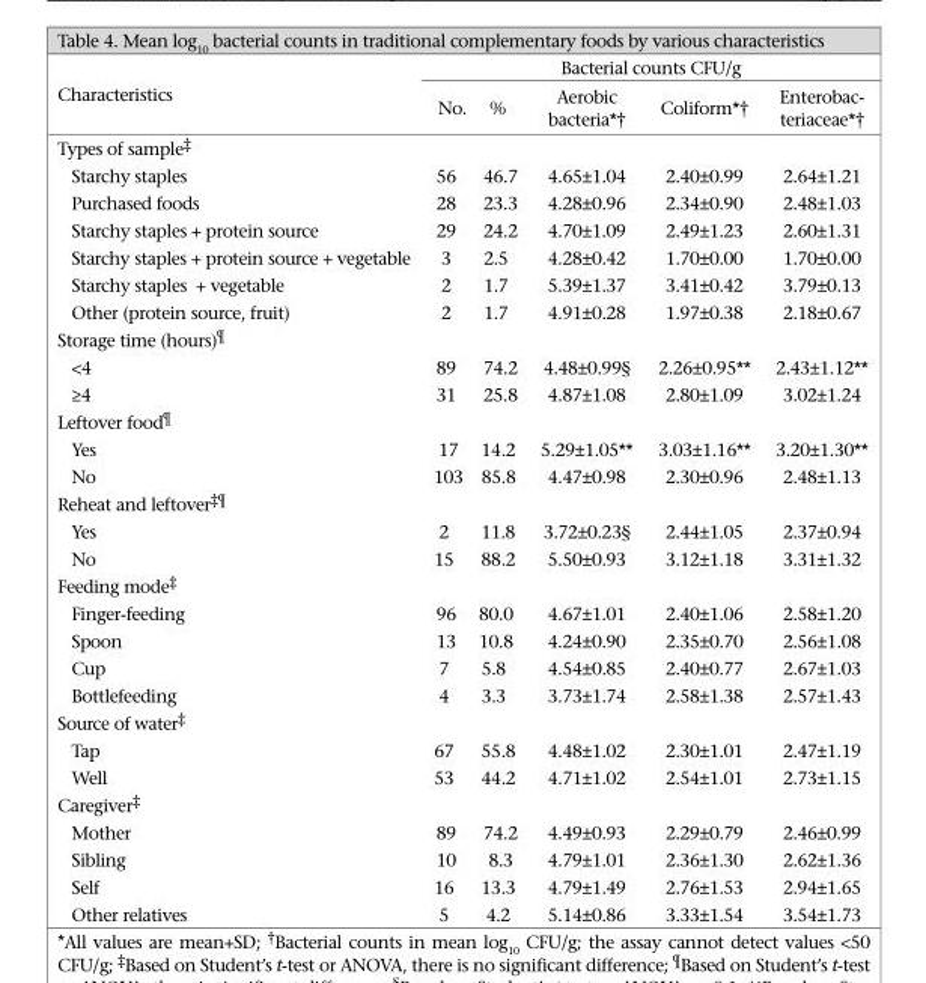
<table><thead><tr><td rowspan="2">Characteristics</td><td colspan="5">Bacterial counts CFU/g</td></tr><tr><td>No.</td><td>%</td><td>Aerobic bacteria*†</td><td>Coliform*†</td><td>Enterobac- teriaceae*†</td></tr></thead><tbody><tr><td colspan="6">Types of sample‡</td></tr><tr><td>Starchy staples</td><td>56</td><td>46.7</td><td>4.65±1.04</td><td>2.40±0.99</td><td>2.64±1.21</td></tr><tr><td>Purchased foods</td><td>28</td><td>23.3</td><td>4.28±0.96</td><td>2.34±0.90</td><td>2.48±1.03</td></tr><tr><td>Starchy staples + protein source</td><td>29</td><td>24.2</td><td>4.70±1.09</td><td>2.49±1.23</td><td>2.60±1.31</td></tr><tr><td>Starchy staples + protein source + vegetable</td><td>3</td><td>2.5</td><td>4.28±0.42</td><td>1.70±0.00</td><td>1.70±0.00</td></tr><tr><td>Starchy staples + vegetable</td><td>2</td><td>1.7</td><td>5.39±1.37</td><td>3.41±0.42</td><td>3.79±0.13</td></tr><tr><td>Other (protein source, fruit)</td><td>2</td><td>1.7</td><td>4.91±0.28</td><td>1.97±0.38</td><td>2.18±0.67</td></tr><tr><td colspan="6">Storage time (hours)¶</td></tr><tr><td>&lt;4</td><td>89</td><td>74.2</td><td>4.48±0.99§</td><td>2.26±0.95**</td><td>2.43±1.12**</td></tr><tr><td>≥4</td><td>31</td><td>25.8</td><td>4.87±1.08</td><td>2.80±1.09</td><td>3.02±1.24</td></tr><tr><td colspan="6">Leftover food¶</td></tr><tr><td>Yes</td><td>17</td><td>14.2</td><td>5.29±1.05**</td><td>3.03±1.16**</td><td>3.20±1.30**</td></tr><tr><td>No</td><td>103</td><td>85.8</td><td>4.47±0.98</td><td>2.30±0.96</td><td>2.48±1.13</td></tr><tr><td colspan="6">Reheat and leftover‡¶</td></tr><tr><td>Yes</td><td>2</td><td>11.8</td><td>3.72±0.23§</td><td>2.44±1.05</td><td>2.37±0.94</td></tr><tr><td>No</td><td>15</td><td>88.2</td><td>5.50±0.93</td><td>3.12±1.18</td><td>3.31±1.32</td></tr><tr><td colspan="6">Feeding mode‡</td></tr><tr><td>Finger-feeding</td><td>96</td><td>80.0</td><td>4.67±1.01</td><td>2.40±1.06</td><td>2.58±1.20</td></tr><tr><td>Spoon</td><td>13</td><td>10.8</td><td>4.24±0.90</td><td>2.35±0.70</td><td>2.56±1.08</td></tr><tr><td>Cup</td><td>7</td><td>5.8</td><td>4.54±0.85</td><td>2.40±0.77</td><td>2.67±1.03</td></tr><tr><td>Bottlefeeding</td><td>4</td><td>3.3</td><td>3.73±1.74</td><td>2.58±1.38</td><td>2.57±1.43</td></tr><tr><td colspan="6">Source of water‡</td></tr><tr><td>Tap</td><td>67</td><td>55.8</td><td>4.48±1.02</td><td>2.30±1.01</td><td>2.47±1.19</td></tr><tr><td>Well</td><td>53</td><td>44.2</td><td>4.71±1.02</td><td>2.54±1.01</td><td>2.73±1.15</td></tr><tr><td colspan="6">Caregiver‡</td></tr><tr><td>Mother</td><td>89</td><td>74.2</td><td>4.49±0.93</td><td>2.29±0.79</td><td>2.46±0.99</td></tr><tr><td>Sibling</td><td>10</td><td>8.3</td><td>4.79±1.01</td><td>2.36±1.30</td><td>2.62±1.36</td></tr><tr><td>Self</td><td>16</td><td>13.3</td><td>4.79±1.49</td><td>2.76±1.53</td><td>2.94±1.65</td></tr><tr><td>Other relatives</td><td>5</td><td>4.2</td><td>5.14±0.86</td><td>3.33±1.54</td><td>3.54±1.73</td></tr></tbody></table>